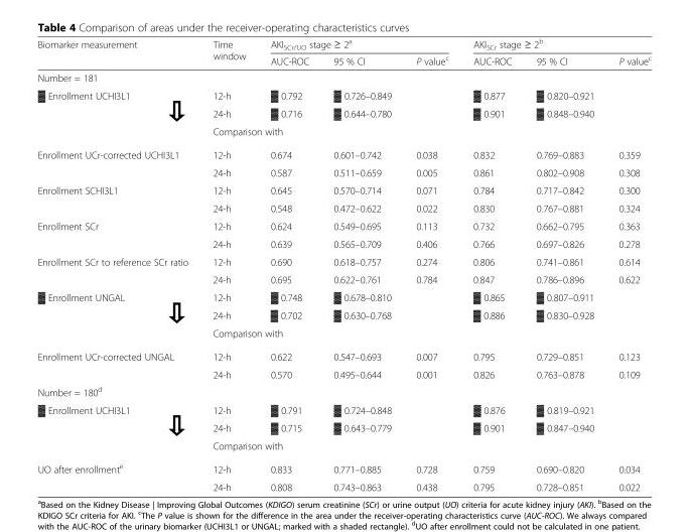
<table><thead><tr><td rowspan="2">Biomarker measurement</td><td rowspan="2">Time window</td><td colspan="3">AKI<sub>SCr/UO</sub> stage ≥ 2<sup>a</sup></td><td colspan="3">AKI<sub>SCr</sub> stage ≥ 2<sup>b</sup></td></tr><tr><td>AUC-ROC</td><td>95 % CI</td><td>P value<sup>c</sup></td><td>AUC-ROC</td><td>95 % CI</td><td>P value<sup>c</sup></td></tr></thead><tbody><tr><td colspan="8">Number = 181</td></tr><tr><td rowspan="3">▓ Enrollment UCHI3L1</td><td>12-h</td><td>▓ 0.792</td><td>▓ 0.726–0.849</td><td></td><td>▓ 0.877</td><td>▓ 0.820–0.921</td><td></td></tr><tr><td>24-h</td><td>▓ 0.716</td><td>▓ 0.644–0.780</td><td></td><td>▓ 0.901</td><td>▓ 0.848–0.940</td><td></td></tr><tr><td colspan="2">Comparison with</td><td></td><td></td><td></td><td></td><td></td></tr><tr><td rowspan="2">Enrollment UCr-corrected UCHI3L1</td><td>12-h</td><td>0.674</td><td>0.601–0.742</td><td>0.038</td><td>0.832</td><td>0.769–0.883</td><td>0.359</td></tr><tr><td>24-h</td><td>0.587</td><td>0.511–0.659</td><td>0.005</td><td>0.861</td><td>0.802–0.908</td><td>0.308</td></tr><tr><td rowspan="2">Enrollment SCHI3L1</td><td>12-h</td><td>0.645</td><td>0.570–0.714</td><td>0.071</td><td>0.784</td><td>0.717–0.842</td><td>0.300</td></tr><tr><td>24-h</td><td>0.548</td><td>0.472–0.622</td><td>0.022</td><td>0.830</td><td>0.767–0.881</td><td>0.324</td></tr><tr><td rowspan="2">Enrollment SCr</td><td>12-h</td><td>0.624</td><td>0.549–0.695</td><td>0.113</td><td>0.732</td><td>0.662–0.795</td><td>0.363</td></tr><tr><td>24-h</td><td>0.639</td><td>0.565–0.709</td><td>0.406</td><td>0.766</td><td>0.697–0.826</td><td>0.278</td></tr><tr><td rowspan="2">Enrollment SCr to reference SCr ratio</td><td>12-h</td><td>0.690</td><td>0.618–0.757</td><td>0.274</td><td>0.806</td><td>0.741–0.861</td><td>0.614</td></tr><tr><td>24-h</td><td>0.695</td><td>0.622–0.761</td><td>0.784</td><td>0.847</td><td>0.786–0.896</td><td>0.622</td></tr><tr><td rowspan="3">▓ Enrollment UNGAL</td><td>12-h</td><td>▓ 0.748</td><td>▓ 0.678–0.810</td><td></td><td>▓ 0.865</td><td>▓ 0.807–0.911</td><td></td></tr><tr><td>24-h</td><td>▓ 0.702</td><td>▓ 0.630–0.768</td><td></td><td>▓ 0.886</td><td>▓ 0.830–0.928</td><td></td></tr><tr><td colspan="2">Comparison with</td><td></td><td></td><td></td><td></td><td></td></tr><tr><td rowspan="2">Enrollment UCr-corrected UNGAL</td><td>12-h</td><td>0.622</td><td>0.547–0.693</td><td>0.007</td><td>0.795</td><td>0.729–0.851</td><td>0.123</td></tr><tr><td>24-h</td><td>0.570</td><td>0.495–0.644</td><td>0.001</td><td>0.826</td><td>0.763–0.878</td><td>0.109</td></tr><tr><td colspan="8">Number = 180<sup>d</sup></td></tr><tr><td rowspan="3">▓ Enrollment UCHI3L1</td><td>12-h</td><td>▓ 0.791</td><td>▓ 0.724–0.848</td><td></td><td>▓ 0.876</td><td>▓ 0.819–0.921</td><td></td></tr><tr><td>24-h</td><td>▓ 0.715</td><td>▓ 0.643–0.779</td><td></td><td>▓ 0.901</td><td>▓ 0.847–0.940</td><td></td></tr><tr><td colspan="2">Comparison with</td><td></td><td></td><td></td><td></td><td></td></tr><tr><td rowspan="2">UO after enrollment<sup>e</sup></td><td>12-h</td><td>0.833</td><td>0.771–0.885</td><td>0.728</td><td>0.759</td><td>0.690–0.820</td><td>0.034</td></tr><tr><td>24-h</td><td>0.808</td><td>0.743–0.863</td><td>0.438</td><td>0.795</td><td>0.728–0.851</td><td>0.022</td></tr></tbody></table>